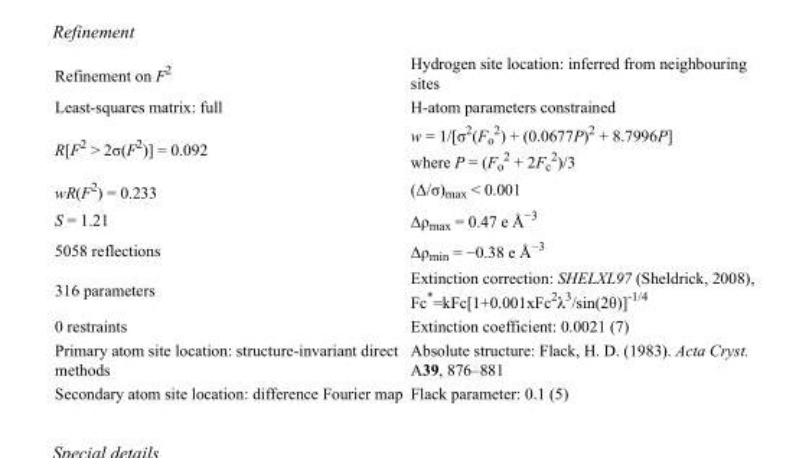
<table><tbody><tr><td>Refinement on F<sup>2</sup></td><td>Hydrogen site location: inferred from neighbouring sites</td></tr><tr><td>Least-squares matrix: full</td><td>H-atom parameters constrained</td></tr><tr><td>R[F<sup>2</sup> &gt; 2σ(F<sup>2</sup>)] = 0.092</td><td>w = 1/[σ<sup>2</sup>(F<sub>o</sub> <sup>2</sup>) + (0.0677P)<sup>2</sup> + 8.7996P] where P = (F<sub>o</sub> <sup>2</sup> + 2F<sub>c</sub> <sup>2</sup>)/3</td></tr><tr><td>wR(F<sup>2</sup>) = 0.233</td><td>(Δ/σ)<sub>max</sub> &lt; 0.001</td></tr><tr><td>S = 1.21</td><td>Δρ<sub>max</sub> = 0.47 e Å<sup>−3</sup></td></tr><tr><td>5058 reflections</td><td>Δρ<sub>min</sub> = −0.38 e Å<sup>−3</sup></td></tr><tr><td>316 parameters</td><td>Extinction correction: SHELXL97 (Sheldrick, 2008), Fc*=kFc[1+0.001xFc<sup>2</sup>λ<sup>3</sup>/sin(2θ)]<sup>-1/4</sup></td></tr><tr><td>0 restraints</td><td>Extinction coefficient: 0.0021 (7)</td></tr><tr><td>Primary atom site location: structure-invariant direct methods</td><td>Absolute structure: Flack, H. D. (1983). Acta Cryst. A39, 876–881</td></tr><tr><td>Secondary atom site location: difference Fourier map</td><td>Flack parameter: 0.1 (5)</td></tr></tbody></table>